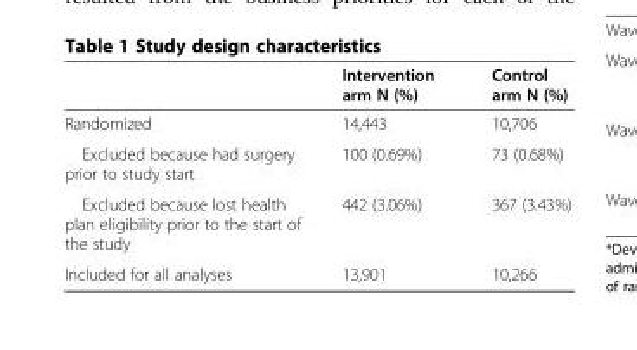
<table><thead><tr><td></td><td>Intervention arm N (%)</td><td>Control arm N (%)</td></tr></thead><tbody><tr><td>Randomized</td><td>14,443</td><td>10,706</td></tr><tr><td>Excluded because had surgery prior to study start</td><td>100 (0.69%)</td><td>73 (0.68%)</td></tr><tr><td>Excluded because lost health plan eligibility prior to the start of the study</td><td>442 (3.06%)</td><td>367 (3.43%)</td></tr><tr><td>Included for all analyses</td><td>13,901</td><td>10,266</td></tr></tbody></table>